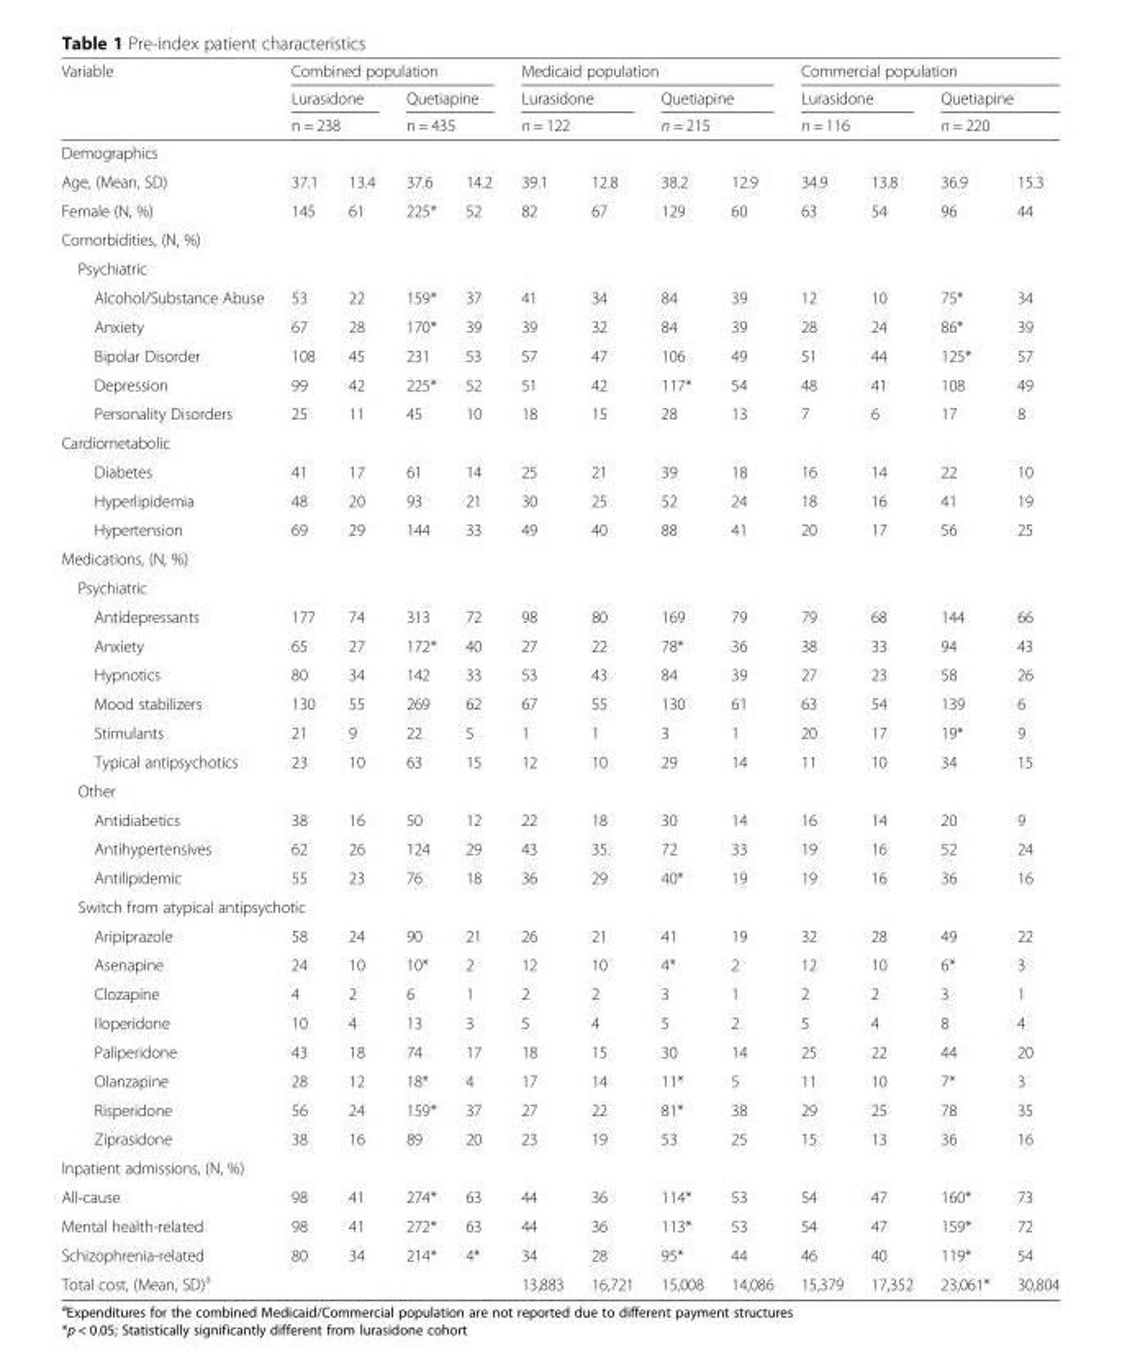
<table><thead><tr><td rowspan="3">Variable</td><td colspan="4">Combined population</td><td colspan="4">Medicaid population</td><td colspan="4">Commercial population</td></tr><tr><td rowspan="2" colspan="2">Lurasidone n = 238</td><td rowspan="2" colspan="2">Quetiapine n = 435</td><td rowspan="2" colspan="2">Lurasidone n = 122</td><td rowspan="2" colspan="2">Quetiapine n = 215</td><td rowspan="2" colspan="2">Lurasidone n = 116</td><td rowspan="2" colspan="2">Quetiapine n = 220</td></tr><tr></tr><tr><td colspan="13">Demographics</td></tr><tr><td>Age, (Mean, SD)</td><td>37.1</td><td>13.4</td><td>37.6</td><td>14.2</td><td>39.1</td><td>12.8</td><td>38.2</td><td>12.9</td><td>34.9</td><td>13.8</td><td>36.9</td><td>15.3</td></tr></thead><tbody><tr><td>Female (N, %)</td><td>145</td><td>61</td><td>225*</td><td>52</td><td>82</td><td>67</td><td>129</td><td>60</td><td>63</td><td>54</td><td>96</td><td>44</td></tr><tr><td colspan="13">Comorbidities, (N, %)</td></tr><tr><td colspan="13">Psychiatric</td></tr><tr><td>Alcohol/Substance Abuse</td><td>53</td><td>22</td><td>159*</td><td>37</td><td>41</td><td>34</td><td>84</td><td>39</td><td>12</td><td>10</td><td>75*</td><td>34</td></tr><tr><td>Anxiety</td><td>67</td><td>28</td><td>170*</td><td>39</td><td>39</td><td>32</td><td>84</td><td>39</td><td>28</td><td>24</td><td>86*</td><td>39</td></tr><tr><td>Bipolar Disorder</td><td>108</td><td>45</td><td>231</td><td>53</td><td>57</td><td>47</td><td>106</td><td>49</td><td>51</td><td>44</td><td>125*</td><td>57</td></tr><tr><td>Depression</td><td>99</td><td>42</td><td>225*</td><td>52</td><td>51</td><td>42</td><td>117*</td><td>54</td><td>48</td><td>41</td><td>108</td><td>49</td></tr><tr><td>Personality Disorders</td><td>25</td><td>11</td><td>45</td><td>10</td><td>18</td><td>15</td><td>28</td><td>13</td><td>7</td><td>6</td><td>17</td><td>8</td></tr><tr><td colspan="13">Cardiometabolic</td></tr><tr><td>Diabetes</td><td>41</td><td>17</td><td>61</td><td>14</td><td>25</td><td>21</td><td>39</td><td>18</td><td>16</td><td>14</td><td>22</td><td>10</td></tr><tr><td>Hyperlipidemia</td><td>48</td><td>20</td><td>93</td><td>21</td><td>30</td><td>25</td><td>52</td><td>24</td><td>18</td><td>16</td><td>41</td><td>19</td></tr><tr><td>Hypertension</td><td>69</td><td>29</td><td>144</td><td>33</td><td>49</td><td>40</td><td>88</td><td>41</td><td>20</td><td>17</td><td>56</td><td>25</td></tr><tr><td colspan="13">Medications, (N, %)</td></tr><tr><td colspan="13">Psychiatric</td></tr><tr><td>Antidepressants</td><td>177</td><td>74</td><td>313</td><td>72</td><td>98</td><td>80</td><td>169</td><td>79</td><td>79</td><td>68</td><td>144</td><td>66</td></tr><tr><td>Anxiety</td><td>65</td><td>27</td><td>172*</td><td>40</td><td>27</td><td>22</td><td>78*</td><td>36</td><td>38</td><td>33</td><td>94</td><td>43</td></tr><tr><td>Hypnotics</td><td>80</td><td>34</td><td>142</td><td>33</td><td>53</td><td>43</td><td>84</td><td>39</td><td>27</td><td>23</td><td>58</td><td>26</td></tr><tr><td>Mood stabilizers</td><td>130</td><td>55</td><td>269</td><td>62</td><td>67</td><td>55</td><td>130</td><td>61</td><td>63</td><td>54</td><td>139</td><td>6</td></tr><tr><td>Stimulants</td><td>21</td><td>9</td><td>22</td><td>5</td><td>1</td><td>1</td><td>3</td><td>1</td><td>20</td><td>17</td><td>19*</td><td>9</td></tr><tr><td>Typical antipsychotics</td><td>23</td><td>10</td><td>63</td><td>15</td><td>12</td><td>10</td><td>29</td><td>14</td><td>11</td><td>10</td><td>34</td><td>15</td></tr><tr><td colspan="13">Other</td></tr><tr><td>Antidiabetics</td><td>38</td><td>16</td><td>50</td><td>12</td><td>22</td><td>18</td><td>30</td><td>14</td><td>16</td><td>14</td><td>20</td><td>9</td></tr><tr><td>Antihypertensives</td><td>62</td><td>26</td><td>124</td><td>29</td><td>43</td><td>35.</td><td>72</td><td>33</td><td>19</td><td>16</td><td>52</td><td>24</td></tr><tr><td>Antilipidemic</td><td>55</td><td>23</td><td>76</td><td>18</td><td>36</td><td>29</td><td>40*</td><td>19</td><td>19</td><td>16</td><td>36</td><td>16</td></tr><tr><td colspan="13">Switch from atypical antipsychotic</td></tr><tr><td>Aripiprazole</td><td>58</td><td>24</td><td>90</td><td>21</td><td>26</td><td>21</td><td>41</td><td>19</td><td>32</td><td>28</td><td>49</td><td>22</td></tr><tr><td>Asenapine</td><td>24</td><td>10</td><td>10*</td><td>2</td><td>12</td><td>10</td><td>4*</td><td>2</td><td>12</td><td>10</td><td>6*</td><td>3</td></tr><tr><td>Clozapine</td><td>4</td><td>2</td><td>6</td><td>1</td><td>2</td><td>2</td><td>3</td><td>1</td><td>2</td><td>2</td><td>3</td><td>1</td></tr><tr><td>Iloperidone</td><td>10</td><td>4</td><td>13</td><td>3</td><td>5</td><td>4</td><td>5</td><td>2</td><td>5</td><td>4</td><td>8</td><td>4</td></tr><tr><td>Paliperidone</td><td>43</td><td>18</td><td>74</td><td>17</td><td>18</td><td>15</td><td>30</td><td>14</td><td>25</td><td>22</td><td>44</td><td>20</td></tr><tr><td>Olanzapine</td><td>28</td><td>12</td><td>18*</td><td>4</td><td>17</td><td>14</td><td>11*</td><td>5</td><td>11</td><td>10</td><td>7*</td><td>3</td></tr><tr><td>Risperidone</td><td>56</td><td>24</td><td>159*</td><td>37</td><td>27</td><td>22</td><td>81*</td><td>38</td><td>29</td><td>25</td><td>78</td><td>35</td></tr><tr><td>Ziprasidone</td><td>38</td><td>16</td><td>89</td><td>20</td><td>23</td><td>19</td><td>53</td><td>25</td><td>15</td><td>13</td><td>36</td><td>16</td></tr><tr><td colspan="13">Inpatient admissions, (N, %)</td></tr><tr><td>All-cause</td><td>98</td><td>41</td><td>274*</td><td>63</td><td>44</td><td>36</td><td>114*</td><td>53</td><td>54</td><td>47</td><td>160*</td><td>73</td></tr><tr><td>Mental health-related</td><td>98</td><td>41</td><td>272*</td><td>63</td><td>44</td><td>36</td><td>113*</td><td>53</td><td>54</td><td>47</td><td>159*</td><td>72</td></tr><tr><td>Schizophrenia-related</td><td>80</td><td>34</td><td>214*</td><td>4*</td><td>34</td><td>28</td><td>95*</td><td>44</td><td>46</td><td>40</td><td>119*</td><td>54</td></tr><tr><td>Total cost, (Mean, SD)<sup>a</sup></td><td></td><td></td><td></td><td></td><td>13,883</td><td>16,721</td><td>15,008</td><td>14,086</td><td>15,379</td><td>17,352</td><td>23,061*</td><td>30,804</td></tr></tbody></table>